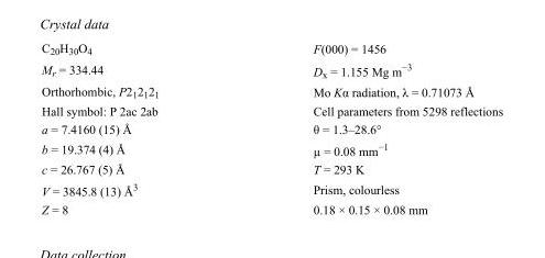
<table><tbody><tr><td>C<sub>20</sub>H<sub>30</sub>O<sub>4</sub></td><td>F(000) = 1456</td></tr><tr><td>M<sub>r</sub> = 334.44</td><td>D<sub>x</sub> = 1.155 Mg m<sup>−3</sup></td></tr><tr><td>Orthorhombic, P2<sub>1</sub>2<sub>1</sub>2<sub>1</sub></td><td>Mo Kα radiation, λ = 0.71073 Å</td></tr><tr><td>Hall symbol: P 2ac 2ab</td><td>Cell parameters from 5298 reflections</td></tr><tr><td>a = 7.4160 (15) Å</td><td>θ = 1.3–28.6°</td></tr><tr><td>b = 19.374 (4) Å</td><td>µ = 0.08 mm<sup>−1</sup></td></tr><tr><td>c = 26.767 (5) Å</td><td>T = 293 K</td></tr><tr><td>V = 3845.8 (13) Å<sup>3</sup></td><td>Prism, colourless</td></tr><tr><td>Z = 8</td><td>0.18 × 0.15 × 0.08 mm</td></tr></tbody></table>